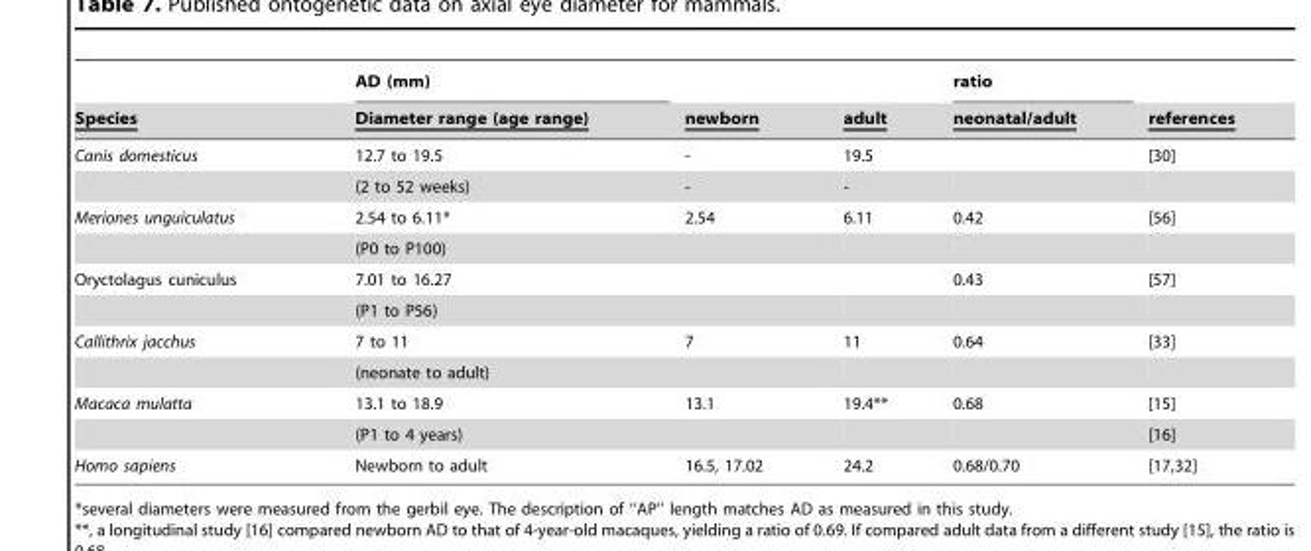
<table><thead><tr><td rowspan="2">Species</td><td rowspan="2">AD (mm) Diameter range (age range)</td><td rowspan="2">newborn</td><td rowspan="2">adult</td><td rowspan="2">ratio neonatal/adult</td><td rowspan="2">references</td></tr><tr></tr></thead><tbody><tr><td rowspan="2">Canis domesticus</td><td>12.7 to 19.5</td><td>-</td><td>19.5</td><td></td><td>[30]</td></tr><tr><td>(2 to 52 weeks)</td><td>-</td><td>-</td><td></td><td></td></tr><tr><td rowspan="2">Meriones unguiculatus</td><td>2.54 to 6.11*</td><td>2.54</td><td>6.11</td><td>0.42</td><td>[56]</td></tr><tr><td>(P0 to P100)</td><td></td><td></td><td></td><td></td></tr><tr><td rowspan="2">Oryctolagus cuniculus</td><td>7.01 to 16.27</td><td></td><td></td><td>0.43</td><td>[57]</td></tr><tr><td>(P1 to P56)</td><td></td><td></td><td></td><td></td></tr><tr><td rowspan="2">Callithrix jacchus</td><td>7 to 11</td><td>7</td><td>11</td><td>0.64</td><td>[33]</td></tr><tr><td>(neonate to adult)</td><td></td><td></td><td></td><td></td></tr><tr><td rowspan="2">Macaca mulatta</td><td>13.1 to 18.9</td><td>13.1</td><td>19.4**</td><td>0.68</td><td>[15]</td></tr><tr><td>(P1 to 4 years)</td><td></td><td></td><td></td><td>[16]</td></tr><tr><td>Homo sapiens</td><td>Newborn to adult</td><td>16.5, 17.02</td><td>24.2</td><td>0.68/0.70</td><td>[17,32]</td></tr></tbody></table>